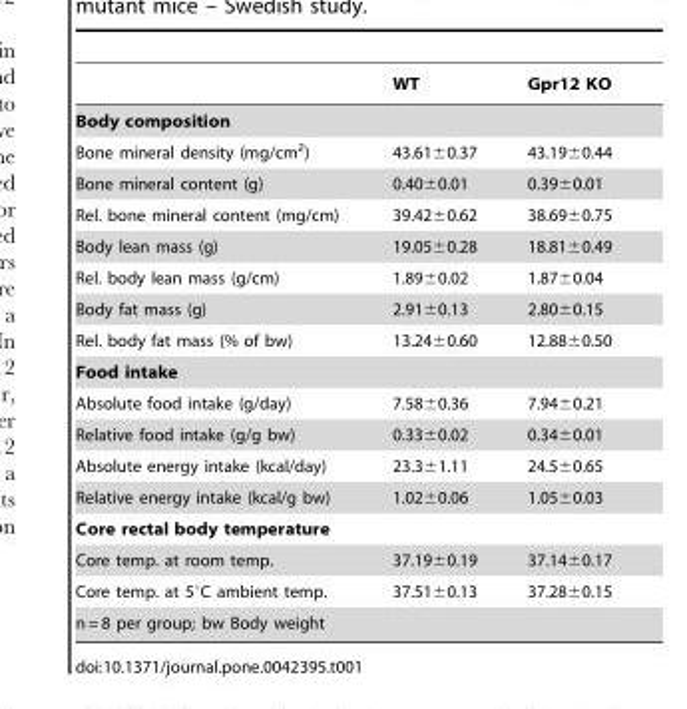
<table><thead><tr><td></td><td>WT</td><td>Gpr12 KO</td></tr></thead><tbody><tr><td colspan="3">Body composition</td></tr><tr><td>Bone mineral density (mg/cm<sup>2</sup>)</td><td>43.61±0.37</td><td>43.19±0.44</td></tr><tr><td>Bone mineral content (g)</td><td>0.40±0.01</td><td>0.39±0.01</td></tr><tr><td>Rel. bone mineral content (mg/cm)</td><td>39.42±0.62</td><td>38.69±0.75</td></tr><tr><td>Body lean mass (g)</td><td>19.05±0.28</td><td>18.81±0.49</td></tr><tr><td>Rel. body lean mass (g/cm)</td><td>1.89±0.02</td><td>1.87±0.04</td></tr><tr><td>Body fat mass (g)</td><td>2.91±0.13</td><td>2.80±0.15</td></tr><tr><td>Rel. body fat mass (% of bw)</td><td>13.24±0.60</td><td>12.88±0.50</td></tr><tr><td colspan="3">Food intake</td></tr><tr><td>Absolute food intake (g/day)</td><td>7.58±0.36</td><td>7.94±0.21</td></tr><tr><td>Relative food intake (g/g bw)</td><td>0.33±0.02</td><td>0.34±0.01</td></tr><tr><td>Absolute energy intake (kcal/day)</td><td>23.3±1.11</td><td>24.5±0.65</td></tr><tr><td>Relative energy intake (kcal/g bw)</td><td>1.02±0.06</td><td>1.05±0.03</td></tr><tr><td colspan="3">Core rectal body temperature</td></tr><tr><td>Core temp. at room temp.</td><td>37.19±0.19</td><td>37.14±0.17</td></tr><tr><td>Core temp. at 5°C ambient temp.</td><td>37.51±0.13</td><td>37.28±0.15</td></tr><tr><td>n = 8 per group; bw Body weight</td><td></td><td></td></tr></tbody></table>